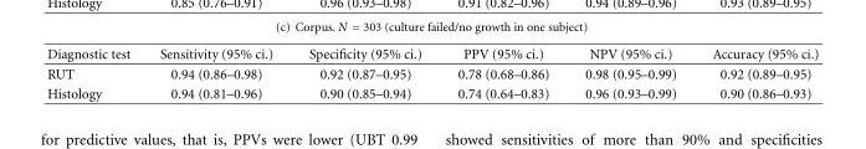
<table><thead><tr><td>Diagnostic test</td><td>Sensitivity (95% ci.)</td><td>Specificity (95% ci.)</td><td>PPV (95% ci.)</td><td>NPV (95% ci.)</td><td>Accuracy (95% ci.)</td></tr></thead><tbody><tr><td>RUT</td><td>0.94 (0.86–0.98)</td><td>0.92 (0.87–0.95)</td><td>0.78 (0.68–0.86)</td><td>0.98 (0.95–0.99)</td><td>0.92 (0.89–0.95)</td></tr><tr><td>Histology</td><td>0.94 (0.81–0.96)</td><td>0.90 (0.85–0.94)</td><td>0.74 (0.64–0.83)</td><td>0.96 (0.93–0.99)</td><td>0.90 (0.86–0.93)</td></tr></tbody></table>